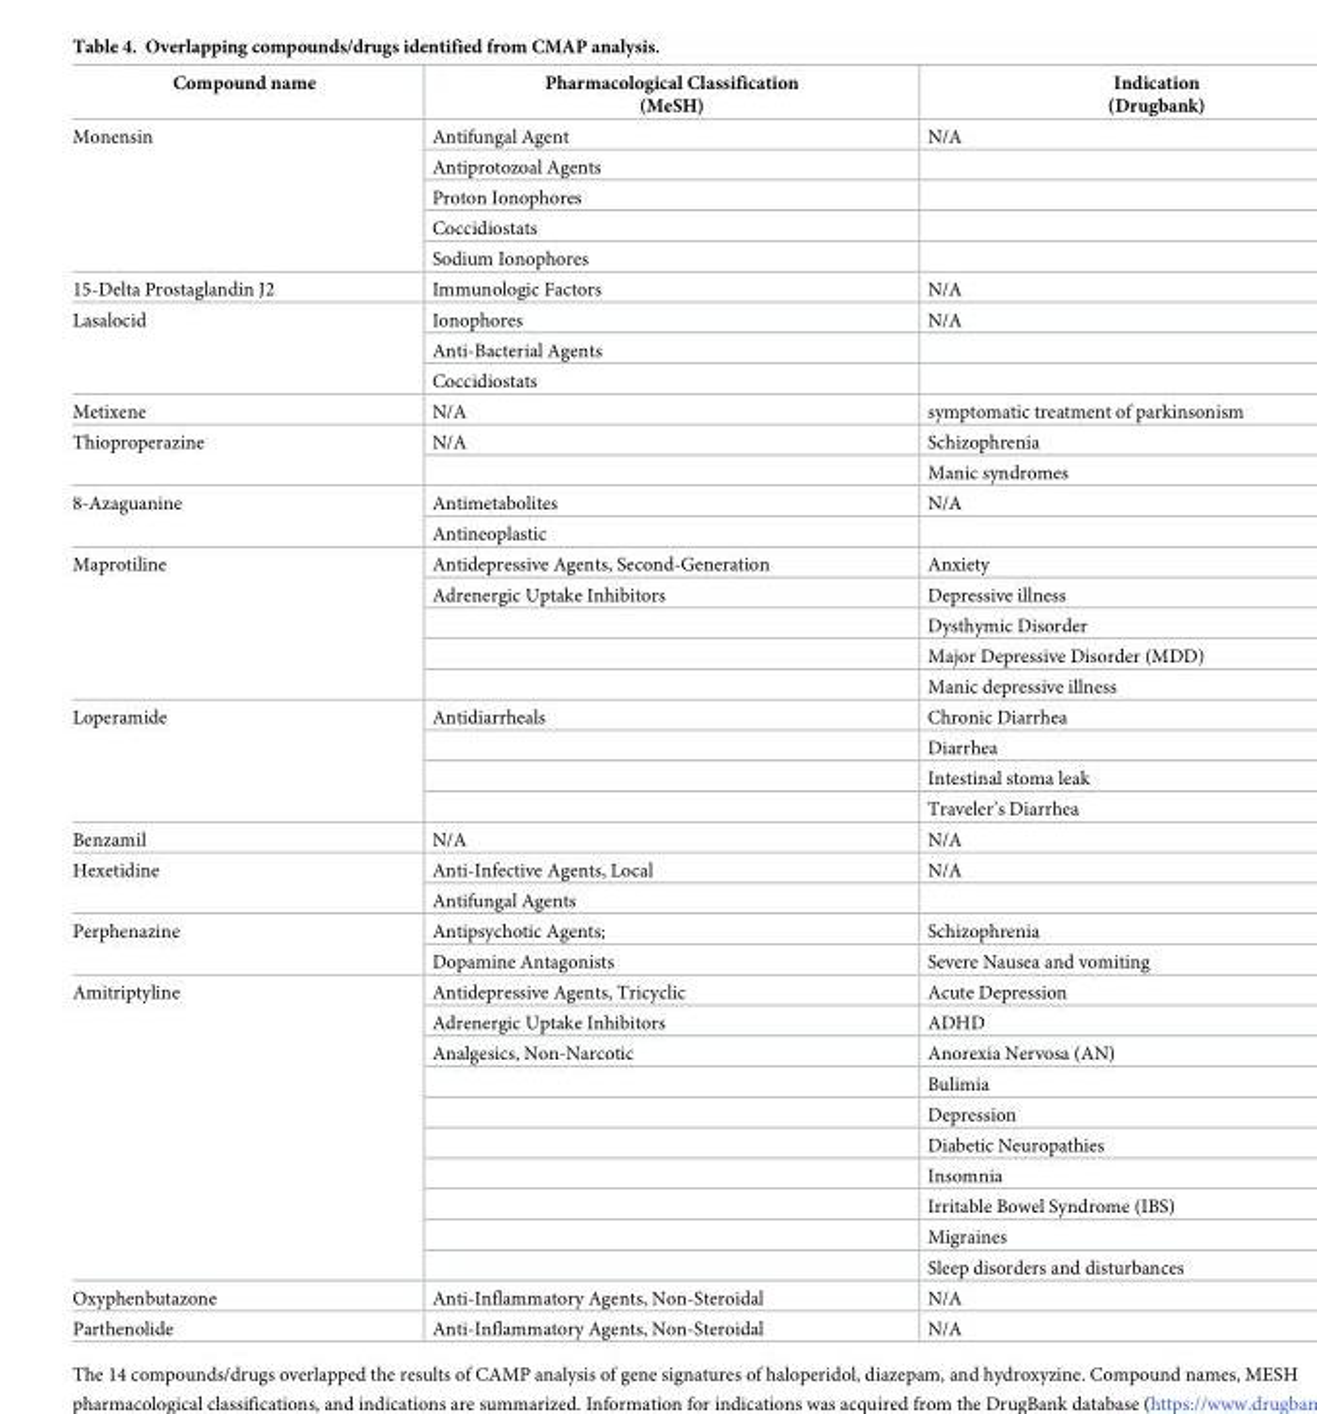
<table><thead><tr><td>Compound name</td><td>Pharmacological Classification (MeSH)</td><td>Indication (Drugbank)</td></tr></thead><tbody><tr><td rowspan="5">Monensin</td><td>Antifungal Agent</td><td>N/A</td></tr><tr><td>Antiprotozoal Agents</td><td></td></tr><tr><td>Proton Ionophores</td><td></td></tr><tr><td>Coccidiostats</td><td></td></tr><tr><td>Sodium Ionophores</td><td></td></tr><tr><td>15-Delta Prostaglandin J2</td><td>Immunologic Factors</td><td>N/A</td></tr><tr><td rowspan="3">Lasalocid</td><td>Ionophores</td><td>N/A</td></tr><tr><td>Anti-Bacterial Agents</td><td></td></tr><tr><td>Coccidiostats</td><td></td></tr><tr><td>Metixene</td><td>N/A</td><td>symptomatic treatment of parkinsonism</td></tr><tr><td rowspan="2">Thioproperazine</td><td>N/A</td><td>Schizophrenia</td></tr><tr><td></td><td>Manic syndromes</td></tr><tr><td rowspan="2">8-Azaguanine</td><td>Antimetabolites</td><td>N/A</td></tr><tr><td>Antineoplastic</td><td></td></tr><tr><td rowspan="5">Maprotiline</td><td>Antidepressive Agents, Second-Generation</td><td>Anxiety</td></tr><tr><td>Adrenergic Uptake Inhibitors</td><td>Depressive illness</td></tr><tr><td></td><td>Dysthymic Disorder</td></tr><tr><td></td><td>Major Depressive Disorder (MDD)</td></tr><tr><td></td><td>Manic depressive illness</td></tr><tr><td rowspan="4">Loperamide</td><td>Antidiarrheals</td><td>Chronic Diarrhea</td></tr><tr><td></td><td>Diarrhea</td></tr><tr><td></td><td>Intestinal stoma leak</td></tr><tr><td></td><td>Traveler’s Diarrhea</td></tr><tr><td>Benzamil</td><td>N/A</td><td>N/A</td></tr><tr><td rowspan="2">Hexetidine</td><td>Anti-Infective Agents, Local</td><td>N/A</td></tr><tr><td>Antifungal Agents</td><td></td></tr><tr><td rowspan="2">Perphenazine</td><td>Antipsychotic Agents;</td><td>Schizophrenia</td></tr><tr><td>Dopamine Antagonists</td><td>Severe Nausea and vomiting</td></tr><tr><td rowspan="10">Amitriptyline</td><td>Antidepressive Agents, Tricyclic</td><td>Acute Depression</td></tr><tr><td>Adrenergic Uptake Inhibitors</td><td>ADHD</td></tr><tr><td>Analgesics, Non-Narcotic</td><td>Anorexia Nervosa (AN)</td></tr><tr><td></td><td>Bulimia</td></tr><tr><td></td><td>Depression</td></tr><tr><td></td><td>Diabetic Neuropathies</td></tr><tr><td></td><td>Insomnia</td></tr><tr><td></td><td>Irritable Bowel Syndrome (IBS)</td></tr><tr><td></td><td>Migraines</td></tr><tr><td></td><td>Sleep disorders and disturbances</td></tr><tr><td>Oxyphenbutazone</td><td>Anti-Inflammatory Agents, Non-Steroidal</td><td>N/A</td></tr><tr><td>Parthenolide</td><td>Anti-Inflammatory Agents, Non-Steroidal</td><td>N/A</td></tr></tbody></table>